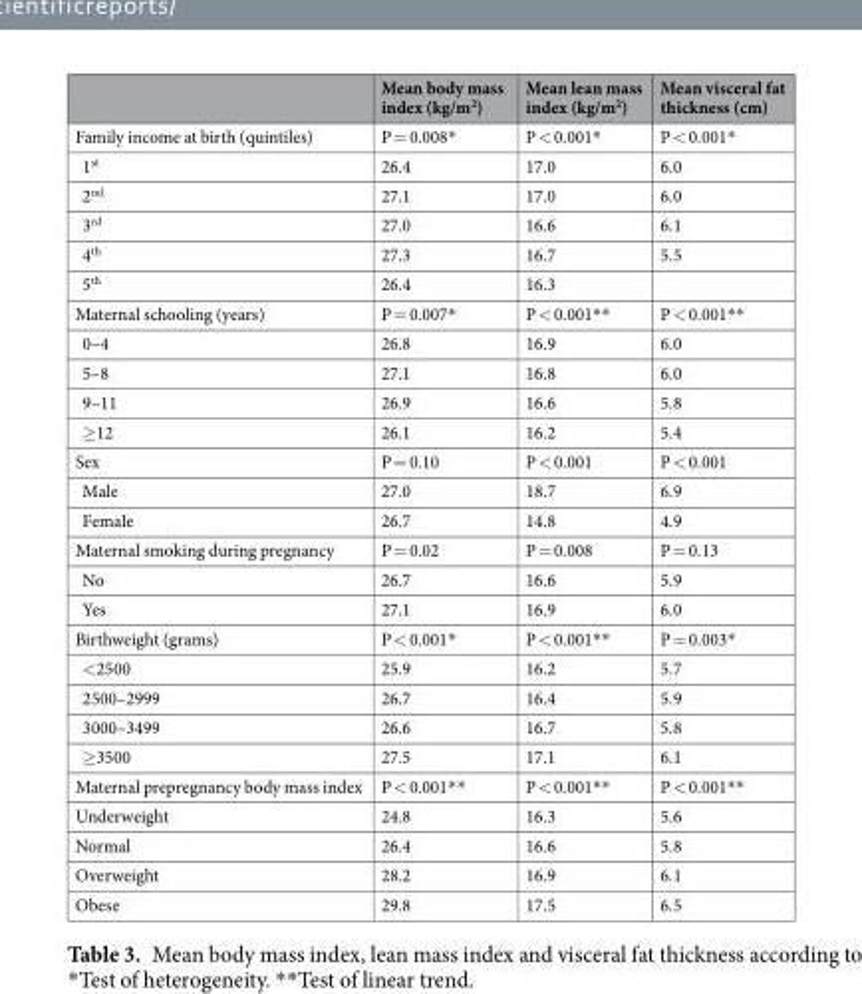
<table><thead><tr><td></td><td>Mean body mass index (kg/m<sup>2</sup>)</td><td>Mean lean mass index (kg/m<sup>2</sup>)</td><td>Mean visceral fat thickness (cm)</td></tr></thead><tbody><tr><td>Family income at birth (quintiles)</td><td>P = 0.008*</td><td>P &lt; 0.001*</td><td>P &lt; 0.001*</td></tr><tr><td>1<sup>st</sup></td><td>26.4</td><td>17.0</td><td>6.0</td></tr><tr><td>2<sup>nd</sup></td><td>27.1</td><td>17.0</td><td>6.0</td></tr><tr><td>3<sup>rd</sup></td><td>27.0</td><td>16.6</td><td>6.1</td></tr><tr><td>4<sup>th</sup></td><td>27.3</td><td>16.7</td><td>5.5</td></tr><tr><td>5<sup>th</sup></td><td>26.4</td><td>16.3</td><td></td></tr><tr><td>Maternal schooling (years)</td><td>P = 0.007*</td><td>P &lt; 0.001**</td><td>P &lt; 0.001**</td></tr><tr><td>0–4</td><td>26.8</td><td>16.9</td><td>6.0</td></tr><tr><td>5–8</td><td>27.1</td><td>16.8</td><td>6.0</td></tr><tr><td>9–11</td><td>26.9</td><td>16.6</td><td>5.8</td></tr><tr><td>≥12</td><td>26.1</td><td>16.2</td><td>5.4</td></tr><tr><td>Sex</td><td>P = 0.10</td><td>P &lt; 0.001</td><td>P &lt; 0.001</td></tr><tr><td>Male</td><td>27.0</td><td>18.7</td><td>6.9</td></tr><tr><td>Female</td><td>26.7</td><td>14.8</td><td>4.9</td></tr><tr><td>Maternal smoking during pregnancy</td><td>P = 0.02</td><td>P = 0.008</td><td>P = 0.13</td></tr><tr><td>No</td><td>26.7</td><td>16.6</td><td>5.9</td></tr><tr><td>Yes</td><td>27.1</td><td>16.9</td><td>6.0</td></tr><tr><td>Birthweight (grams)</td><td>P &lt; 0.001*</td><td>P &lt; 0.001**</td><td>P = 0.003*</td></tr><tr><td>&lt;2500</td><td>25.9</td><td>16.2</td><td>5.7</td></tr><tr><td>2500–2999</td><td>26.7</td><td>16.4</td><td>5.9</td></tr><tr><td>3000–3499</td><td>26.6</td><td>16.7</td><td>5.8</td></tr><tr><td>≥3500</td><td>27.5</td><td>17.1</td><td>6.1</td></tr><tr><td>Maternal prepregnancy body mass index</td><td>P &lt; 0.001**</td><td>P &lt; 0.001**</td><td>P &lt; 0.001**</td></tr><tr><td>Underweight</td><td>24.8</td><td>16.3</td><td>5.6</td></tr><tr><td>Normal</td><td>26.4</td><td>16.6</td><td>5.8</td></tr><tr><td>Overweight</td><td>28.2</td><td>16.9</td><td>6.1</td></tr><tr><td>Obese</td><td>29.8</td><td>17.5</td><td>6.5</td></tr></tbody></table>